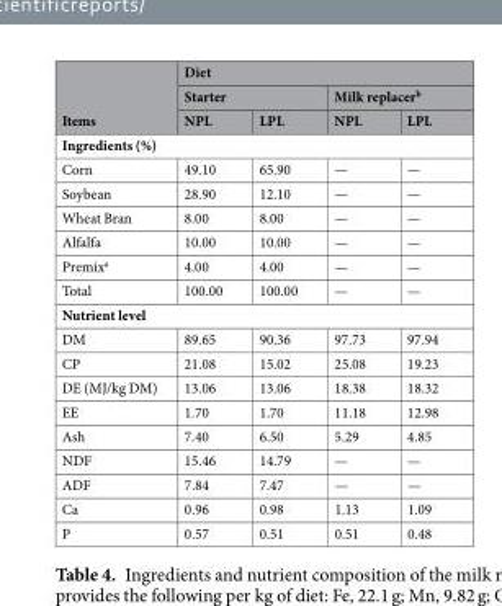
<table><thead><tr><td rowspan="3">Items</td><td colspan="4">Diet</td></tr><tr><td colspan="2">Starter</td><td colspan="2">Milk replacer<sup>b</sup></td></tr><tr><td>NPL</td><td>LPL</td><td>NPL</td><td>LPL</td></tr></thead><tbody><tr><td colspan="5">Ingredients (%)</td></tr><tr><td>Corn</td><td>49.10</td><td>65.90</td><td>—</td><td>—</td></tr><tr><td>Soybean</td><td>28.90</td><td>12.10</td><td>—</td><td>—</td></tr><tr><td>Wheat Bran</td><td>8.00</td><td>8.00</td><td>—</td><td>—</td></tr><tr><td>Alfalfa</td><td>10.00</td><td>10.00</td><td>—</td><td>—</td></tr><tr><td>Premix<sup>a</sup></td><td>4.00</td><td>4.00</td><td>—</td><td>—</td></tr><tr><td>Total</td><td>100.00</td><td>100.00</td><td>—</td><td>—</td></tr><tr><td colspan="5">Nutrient level</td></tr><tr><td>DM</td><td>89.65</td><td>90.36</td><td>97.73</td><td>97.94</td></tr><tr><td>CP</td><td>21.08</td><td>15.02</td><td>25.08</td><td>19.23</td></tr><tr><td>DE (MJ/kg DM)</td><td>13.06</td><td>13.06</td><td>18.38</td><td>18.32</td></tr><tr><td>EE</td><td>1.70</td><td>1.70</td><td>11.18</td><td>12.98</td></tr><tr><td>Ash</td><td>7.40</td><td>6.50</td><td>5.29</td><td>4.85</td></tr><tr><td>NDF</td><td>15.46</td><td>14.79</td><td>—</td><td>—</td></tr><tr><td>ADF</td><td>7.84</td><td>7.47</td><td>—</td><td>—</td></tr><tr><td>Ca</td><td>0.96</td><td>0.98</td><td>1.13</td><td>1.09</td></tr><tr><td>P</td><td>0.57</td><td>0.51</td><td>0.51</td><td>0.48</td></tr></tbody></table>